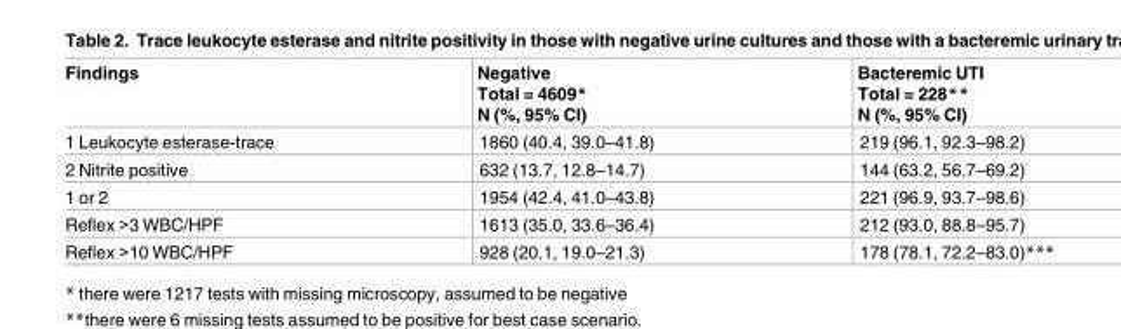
<table><thead><tr><td>Findings</td><td>Negative Total = 4609* N (%, 95% CI)</td><td>Bacteremic UTI Total = 228** N (%, 95% CI)</td></tr></thead><tbody><tr><td>1 Leukocyte esterase-trace</td><td>1860 (40.4, 39.0–41.8)</td><td>219 (96.1, 92.3–98.2)</td></tr><tr><td>2 Nitrite positive</td><td>632 (13.7, 12.8–14.7)</td><td>144 (63.2, 56.7–69.2)</td></tr><tr><td>1 or 2</td><td>1954 (42.4, 41.0–43.8)</td><td>221 (96.9, 93.7–98.6)</td></tr><tr><td>Reflex &gt;3 WBC/HPF</td><td>1613 (35.0, 33.6–36.4)</td><td>212 (93.0, 88.8–95.7)</td></tr><tr><td>Reflex &gt;10 WBC/HPF</td><td>928 (20.1, 19.0–21.3)</td><td>178 (78.1, 72.2–83.0)***</td></tr></tbody></table>